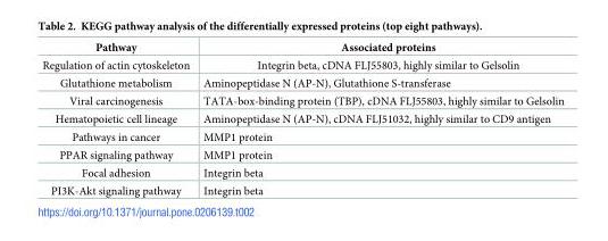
<table><thead><tr><td>Pathway</td><td>Associated proteins</td></tr></thead><tbody><tr><td>Regulation of actin cytoskeleton</td><td>Integrin beta, cDNA FLJ55803, highly similar to Gelsolin</td></tr><tr><td>Glutathione metabolism</td><td>Aminopeptidase N (AP-N), Glutathione S-transferase</td></tr><tr><td>Viral carcinogenesis</td><td>TATA-box-binding protein (TBP), cDNA FLJ55803, highly similar to Gelsolin</td></tr><tr><td>Hematopoietic cell lineage</td><td>Aminopeptidase N (AP-N), cDNA FLJ51032, highly similar to CD9 antigen</td></tr><tr><td>Pathways in cancer</td><td>MMP1 protein</td></tr><tr><td>PPAR signaling pathway</td><td>MMP1 protein</td></tr><tr><td>Focal adhesion</td><td>Integrin beta</td></tr><tr><td>PI3K-Akt signaling pathway</td><td>Integrin beta</td></tr></tbody></table>